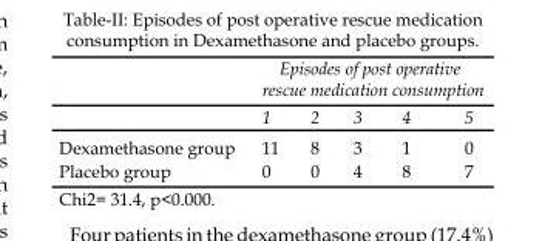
<table><thead><tr><td rowspan="2"></td><td colspan="5">Episodes of post operative rescue medication consumption</td></tr><tr><td>1</td><td>2</td><td>3</td><td>4</td><td>5</td></tr></thead><tbody><tr><td>Dexamethasone group</td><td>11</td><td>8</td><td>3</td><td>1</td><td>0</td></tr><tr><td>Placebo group</td><td>0</td><td>0</td><td>4</td><td>8</td><td>7</td></tr></tbody></table>